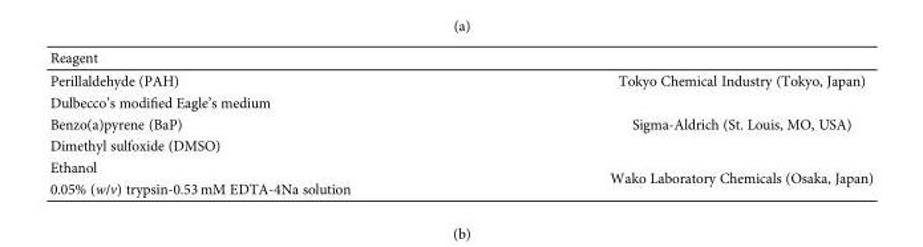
<table><thead><tr><td colspan="2">Reagent</td></tr><tr><td>Perillaldehyde (PAH)</td><td>Tokyo Chemical Industry (Tokyo, Japan)</td></tr></thead><tbody><tr><td>Dulbecco’s modified Eagle’s medium</td><td rowspan="3">Sigma-Aldrich (St. Louis, MO, USA)</td></tr><tr><td>Benzo(a)pyrene (BaP)</td></tr><tr><td>Dimethyl sulfoxide (DMSO)</td></tr><tr><td>Ethanol</td><td rowspan="2">Wako Laboratory Chemicals (Osaka, Japan)</td></tr><tr><td>0.05% (w/v) trypsin-0.53 mM EDTA-4Na solution</td></tr></tbody></table>